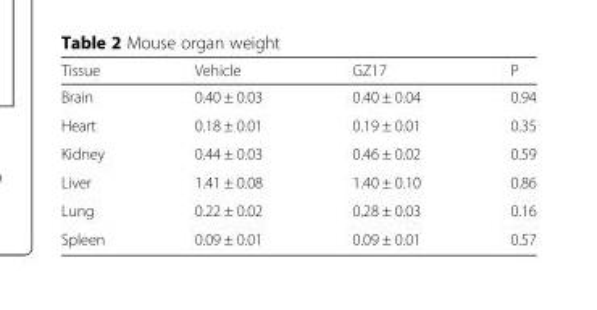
<table><thead><tr><td>Tissue</td><td>Vehicle</td><td>GZ17</td><td>P</td></tr></thead><tbody><tr><td>Brain</td><td>0.40 ± 0.03</td><td>0.40 ± 0.04</td><td>0.94</td></tr><tr><td>Heart</td><td>0.18 ± 0.01</td><td>0.19 ± 0.01</td><td>0.35</td></tr><tr><td>Kidney</td><td>0.44 ± 0.03</td><td>0.46 ± 0.02</td><td>0.59</td></tr><tr><td>Liver</td><td>1.41 ± 0.08</td><td>1.40 ± 0.10</td><td>0.86</td></tr><tr><td>Lung</td><td>0.22 ± 0.02</td><td>0.28 ± 0.03</td><td>0.16</td></tr><tr><td>Spleen</td><td>0.09 ± 0.01</td><td>0.09 ± 0.01</td><td>0.57</td></tr></tbody></table>